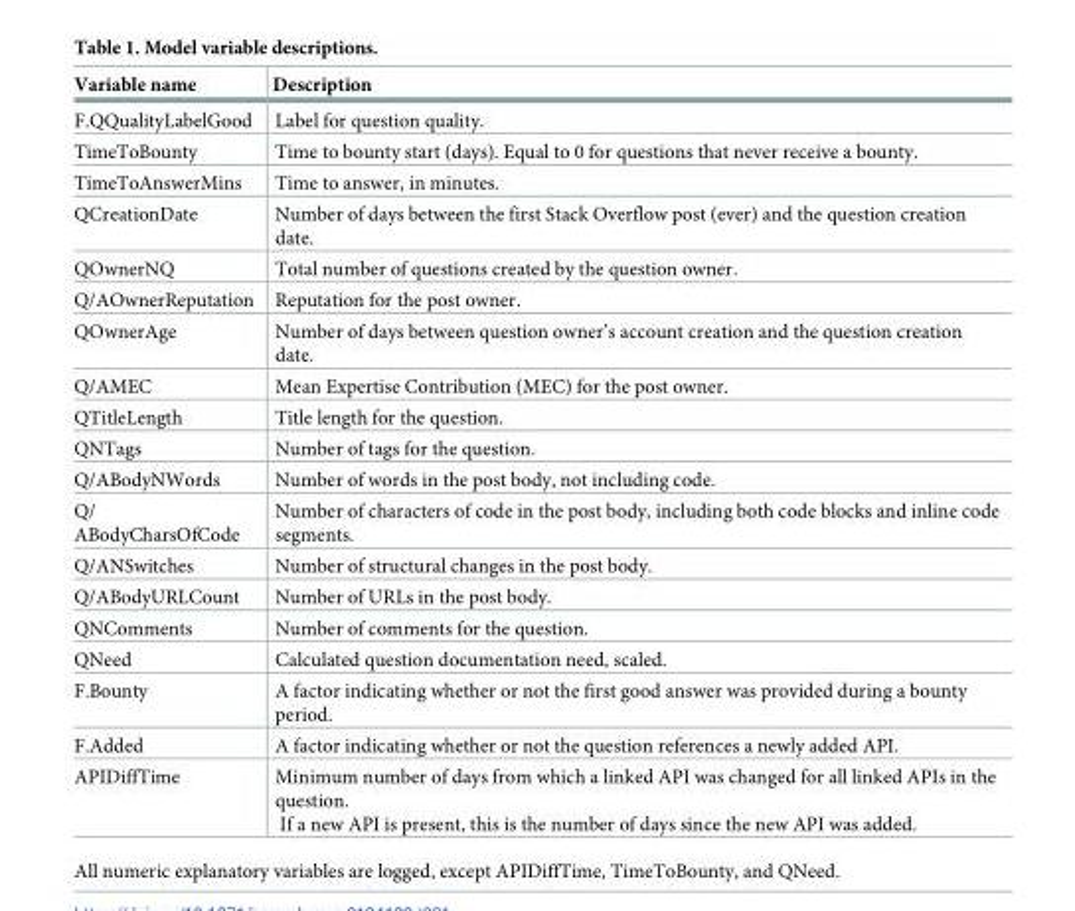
<table><thead><tr><td>Variable name</td><td>Description</td></tr></thead><tbody><tr><td>F.QQualityLabelGood</td><td>Label for question quality.</td></tr><tr><td>TimeToBounty</td><td>Time to bounty start (days). Equal to 0 for questions that never receive a bounty.</td></tr><tr><td>TimeToAnswerMins</td><td>Time to answer, in minutes.</td></tr><tr><td>QCreationDate</td><td>Number of days between the first Stack Overflow post (ever) and the question creation date.</td></tr><tr><td>QOwnerNQ</td><td>Total number of questions created by the question owner.</td></tr><tr><td>Q/AOwnerReputation</td><td>Reputation for the post owner.</td></tr><tr><td>QOwnerAge</td><td>Number of days between question owner’s account creation and the question creation date.</td></tr><tr><td>Q/AMEC</td><td>Mean Expertise Contribution (MEC) for the post owner.</td></tr><tr><td>QTitleLength</td><td>Title length for the question.</td></tr><tr><td>QNTags</td><td>Number of tags for the question.</td></tr><tr><td>Q/ABodyNWords</td><td>Number of words in the post body, not including code.</td></tr><tr><td>Q/ ABodyCharsOfCode</td><td>Number of characters of code in the post body, including both code blocks and inline code segments.</td></tr><tr><td>Q/ANSwitches</td><td>Number of structural changes in the post body.</td></tr><tr><td>Q/ABodyURLCount</td><td>Number of URLs in the post body.</td></tr><tr><td>QNComments</td><td>Number of comments for the question.</td></tr><tr><td>QNeed</td><td>Calculated question documentation need, scaled.</td></tr><tr><td>F.Bounty</td><td>A factor indicating whether or not the first good answer was provided during a bounty period.</td></tr><tr><td>F.Added</td><td>A factor indicating whether or not the question references a newly added API.</td></tr><tr><td>APIDiffTime</td><td>Minimum number of days from which a linked API was changed for all linked APIs in the question. If a new API is present, this is the number of days since the new API was added.</td></tr></tbody></table>